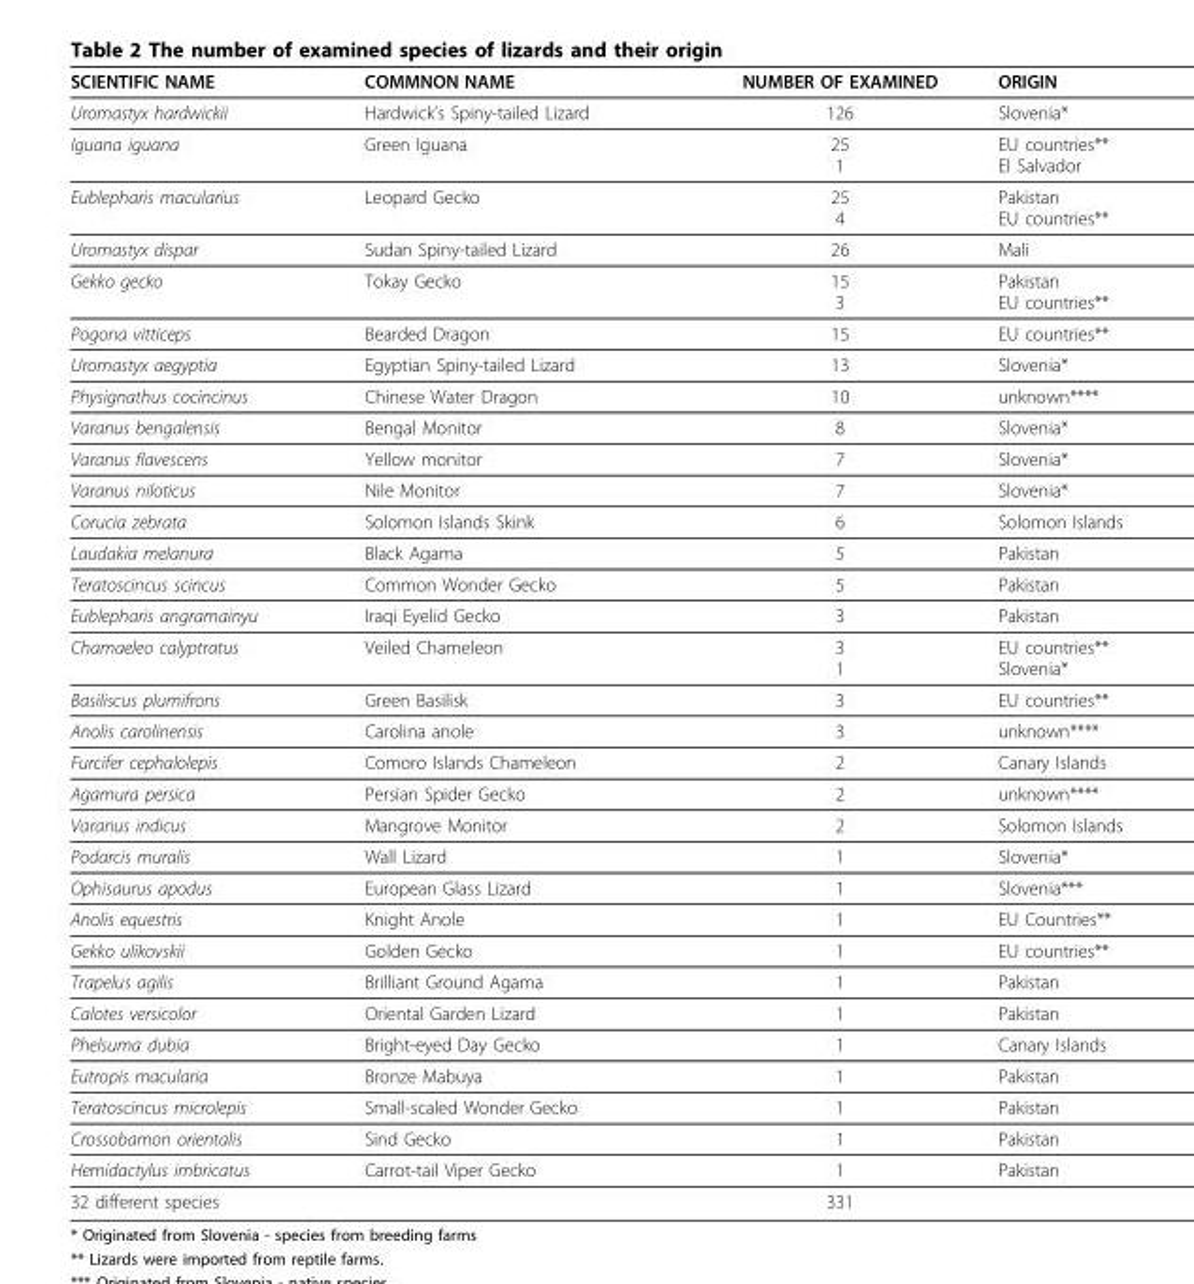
<table><thead><tr><td>SCIENTIFIC NAME</td><td>COMMNON NAME</td><td>NUMBER OF EXAMINED</td><td>ORIGIN</td></tr></thead><tbody><tr><td>Uromastyx hardwickii</td><td>Hardwick’s Spiny-tailed Lizard</td><td>126</td><td>Slovenia*</td></tr><tr><td>Iguana iguana</td><td>Green Iguana</td><td>25 1</td><td>EU countries** El Salvador</td></tr><tr><td>Eublepharis macularius</td><td>Leopard Gecko</td><td>25 4</td><td>Pakistan EU countries**</td></tr><tr><td>Uromastyx dispar</td><td>Sudan Spiny-tailed Lizard</td><td>26</td><td>Mali</td></tr><tr><td>Gekko gecko</td><td>Tokay Gecko</td><td>15 3</td><td>Pakistan EU countries**</td></tr><tr><td>Pogona vitticeps</td><td>Bearded Dragon</td><td>15</td><td>EU countries**</td></tr><tr><td>Uromastyx aegyptia</td><td>Egyptian Spiny-tailed Lizard</td><td>13</td><td>Slovenia*</td></tr><tr><td>Physignathus cocincinus</td><td>Chinese Water Dragon</td><td>10</td><td>unknown****</td></tr><tr><td>Varanus bengalensis</td><td>Bengal Monitor</td><td>8</td><td>Slovenia*</td></tr><tr><td>Varanus flavescens</td><td>Yellow monitor</td><td>7</td><td>Slovenia*</td></tr><tr><td>Varanus niloticus</td><td>Nile Monitor</td><td>7</td><td>Slovenia*</td></tr><tr><td>Corucia zebrata</td><td>Solomon Islands Skink</td><td>6</td><td>Solomon Islands</td></tr><tr><td>Laudakia melanura</td><td>Black Agama</td><td>5</td><td>Pakistan</td></tr><tr><td>Teratoscincus scincus</td><td>Common Wonder Gecko</td><td>5</td><td>Pakistan</td></tr><tr><td>Eublepharis angramainyu</td><td>Iraqi Eyelid Gecko</td><td>3</td><td>Pakistan</td></tr><tr><td>Chamaeleo calyptratus</td><td>Veiled Chameleon</td><td>3 1</td><td>EU countries** Slovenia*</td></tr><tr><td>Basiliscus plumifrons</td><td>Green Basilisk</td><td>3</td><td>EU countries**</td></tr><tr><td>Anolis carolinensis</td><td>Carolina anole</td><td>3</td><td>unknown****</td></tr><tr><td>Furcifer cephalolepis</td><td>Comoro Islands Chameleon</td><td>2</td><td>Canary Islands</td></tr><tr><td>Agamura persica</td><td>Persian Spider Gecko</td><td>2</td><td>unknown****</td></tr><tr><td>Varanus indicus</td><td>Mangrove Monitor</td><td>2</td><td>Solomon Islands</td></tr><tr><td>Podarcis muralis</td><td>Wall Lizard</td><td>1</td><td>Slovenia*</td></tr><tr><td>Ophisaurus apodus</td><td>European Glass Lizard</td><td>1</td><td>Slovenia***</td></tr><tr><td>Anolis equestris</td><td>Knight Anole</td><td>1</td><td>EU Countries**</td></tr><tr><td>Gekko ulikovskii</td><td>Golden Gecko</td><td>1</td><td>EU countries**</td></tr><tr><td>Trapelus agilis</td><td>Brilliant Ground Agama</td><td>1</td><td>Pakistan</td></tr><tr><td>Calotes versicolor</td><td>Oriental Garden Lizard</td><td>1</td><td>Pakistan</td></tr><tr><td>Phelsuma dubia</td><td>Bright-eyed Day Gecko</td><td>1</td><td>Canary Islands</td></tr><tr><td>Eutropis macularia</td><td>Bronze Mabuya</td><td>1</td><td>Pakistan</td></tr><tr><td>Teratoscincus microlepis</td><td>Small-scaled Wonder Gecko</td><td>1</td><td>Pakistan</td></tr><tr><td>Crossobamon orientalis</td><td>Sind Gecko</td><td>1</td><td>Pakistan</td></tr><tr><td>Hemidactylus imbricatus</td><td>Carrot-tail Viper Gecko</td><td>1</td><td>Pakistan</td></tr><tr><td>32 different species</td><td></td><td>331</td><td></td></tr></tbody></table>